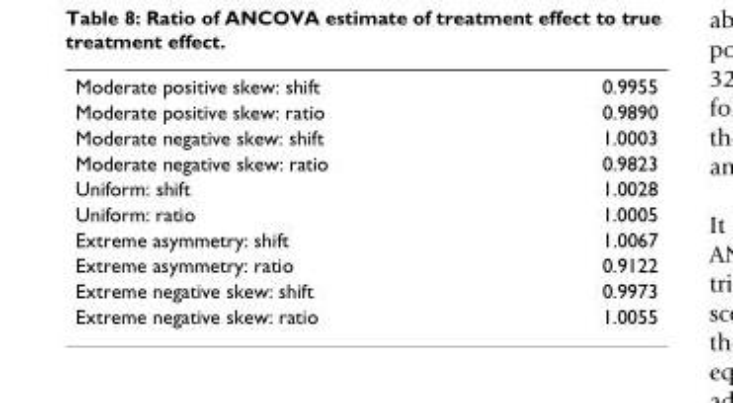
<table><tbody><tr><td>Moderate positive skew: shift</td><td>0.9955</td></tr><tr><td>Moderate positive skew: ratio</td><td>0.9890</td></tr><tr><td>Moderate negative skew: shift</td><td>1.0003</td></tr><tr><td>Moderate negative skew: ratio</td><td>0.9823</td></tr><tr><td>Uniform: shift</td><td>1.0028</td></tr><tr><td>Uniform: ratio</td><td>1.0005</td></tr><tr><td>Extreme asymmetry: shift</td><td>1.0067</td></tr><tr><td>Extreme asymmetry: ratio</td><td>0.9122</td></tr><tr><td>Extreme negative skew: shift</td><td>0.9973</td></tr><tr><td>Extreme negative skew: ratio</td><td>1.0055</td></tr></tbody></table>